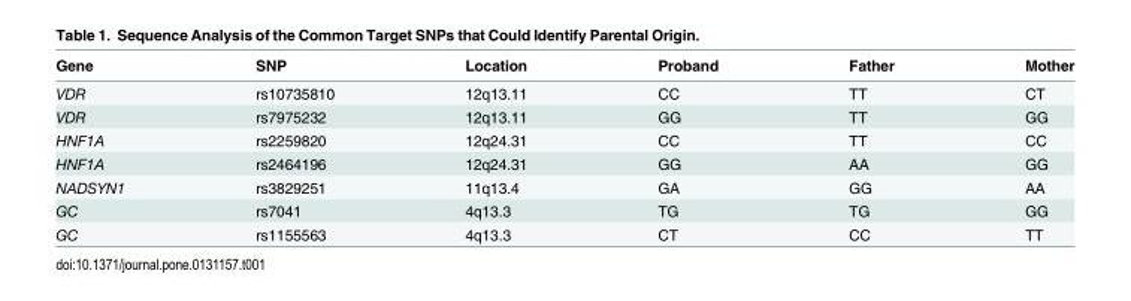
<table><thead><tr><td>Gene</td><td>SNP</td><td>Location</td><td>Proband</td><td>Father</td><td>Mother</td></tr></thead><tbody><tr><td>VDR</td><td>rs10735810</td><td>12q13.11</td><td>CC</td><td>TT</td><td>CT</td></tr><tr><td>VDR</td><td>rs7975232</td><td>12q13.11</td><td>GG</td><td>TT</td><td>GG</td></tr><tr><td>HNF1A</td><td>rs2259820</td><td>12q24.31</td><td>CC</td><td>TT</td><td>CC</td></tr><tr><td>HNF1A</td><td>rs2464196</td><td>12q24.31</td><td>GG</td><td>AA</td><td>GG</td></tr><tr><td>NADSYN1</td><td>rs3829251</td><td>11q13.4</td><td>GA</td><td>GG</td><td>AA</td></tr><tr><td>GC</td><td>rs7041</td><td>4q13.3</td><td>TG</td><td>TG</td><td>GG</td></tr><tr><td>GC</td><td>rs1155563</td><td>4q13.3</td><td>CT</td><td>CC</td><td>TT</td></tr></tbody></table>